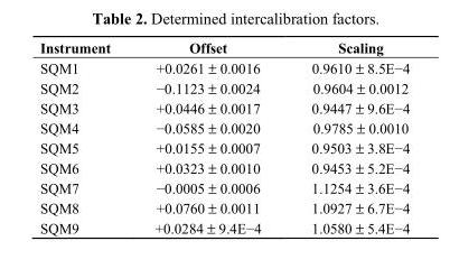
<table><thead><tr><td>Instrument</td><td>Offset</td><td>Scaling</td></tr></thead><tbody><tr><td>SQM1</td><td>+0.0261 ± 0.0016</td><td>0.9610 ± 8.5E−4</td></tr><tr><td>SQM2</td><td>−0.1123 ± 0.0024</td><td>0.9604 ± 0.0012</td></tr><tr><td>SQM3</td><td>+0.0446 ± 0.0017</td><td>0.9447 ± 9.6E−4</td></tr><tr><td>SQM4</td><td>−0.0585 ± 0.0020</td><td>0.9785 ± 0.0010</td></tr><tr><td>SQM5</td><td>+0.0155 ± 0.0007</td><td>0.9503 ± 3.8E−4</td></tr><tr><td>SQM6</td><td>+0.0323 ± 0.0010</td><td>0.9453 ± 5.2E−4</td></tr><tr><td>SQM7</td><td>−0.0005 ± 0.0006</td><td>1.1254 ± 3.6E−4</td></tr><tr><td>SQM8</td><td>+0.0760 ± 0.0011</td><td>1.0927 ± 6.7E−4</td></tr><tr><td>SQM9</td><td>+0.0284 ± 9.4E−4</td><td>1.0580 ± 5.4E−4</td></tr></tbody></table>